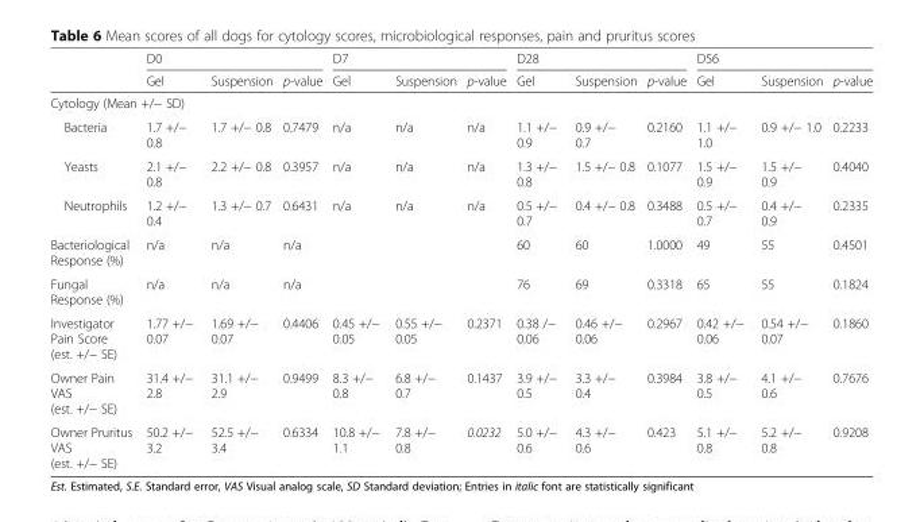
<table><thead><tr><td rowspan="2"></td><td colspan="3">D0</td><td colspan="3">D7</td><td colspan="3">D28</td><td colspan="3">D56</td></tr><tr><td>Gel</td><td>Suspension</td><td>p-value</td><td>Gel</td><td>Suspension</td><td>p-value</td><td>Gel</td><td>Suspension</td><td>p-value</td><td>Gel</td><td>Suspension</td><td>p-value</td></tr></thead><tbody><tr><td colspan="13">Cytology (Mean +/− SD)</td></tr><tr><td>Bacteria</td><td>1.7 +/− 0.8</td><td>1.7 +/− 0.8</td><td>0.7479</td><td>n/a</td><td>n/a</td><td>n/a</td><td>1.1 +/− 0.9</td><td>0.9 +/− 0.7</td><td>0.2160</td><td>1.1 +/− 1.0</td><td>0.9 +/− 1.0</td><td>0.2233</td></tr><tr><td>Yeasts</td><td>2.1 +/− 0.8</td><td>2.2 +/− 0.8</td><td>0.3957</td><td>n/a</td><td>n/a</td><td>n/a</td><td>1.3 +/− 0.8</td><td>1.5 +/− 0.8</td><td>0.1077</td><td>1.5 +/− 0.9</td><td>1.5 +/− 0.9</td><td>0.4040</td></tr><tr><td>Neutrophils</td><td>1.2 +/− 0.4</td><td>1.3 +/− 0.7</td><td>0.6431</td><td>n/a</td><td>n/a</td><td>n/a</td><td>0.5 +/− 0.7</td><td>0.4 +/− 0.8</td><td>0.3488</td><td>0.5 +/− 0.7</td><td>0.4 +/− 0.9</td><td>0.2335</td></tr><tr><td>Bacteriological Response (%)</td><td>n/a</td><td>n/a</td><td>n/a</td><td></td><td></td><td></td><td>60</td><td>60</td><td>1.0000</td><td>49</td><td>55</td><td>0.4501</td></tr><tr><td>Fungal Response (%)</td><td>n/a</td><td>n/a</td><td>n/a</td><td></td><td></td><td></td><td>76</td><td>69</td><td>0.3318</td><td>65</td><td>55</td><td>0.1824</td></tr><tr><td>Investigator Pain Score (est. +/− SE)</td><td>1.77 +/− 0.07</td><td>1.69 +/− 0.07</td><td>0.4406</td><td>0.45 +/− 0.05</td><td>0.55 +/− 0.05</td><td>0.2371</td><td>0.38 /− 0.06</td><td>0.46 +/− 0.06</td><td>0.2967</td><td>0.42 +/− 0.06</td><td>0.54 +/− 0.07</td><td>0.1860</td></tr><tr><td>Owner Pain VAS (est. +/− SE)</td><td>31.4 +/− 2.8</td><td>31.1 +/− 2.9</td><td>0.9499</td><td>8.3 +/− 0.8</td><td>6.8 +/− 0.7</td><td>0.1437</td><td>3.9 +/− 0.5</td><td>3.3 +/− 0.4</td><td>0.3984</td><td>3.8 +/− 0.5</td><td>4.1 +/− 0.6</td><td>0.7676</td></tr><tr><td>Owner Pruritus VAS (est. +/− SE)</td><td>50.2 +/− 3.2</td><td>52.5 +/− 3.4</td><td>0.6334</td><td>10.8 +/− 1.1</td><td>7.8 +/− 0.8</td><td>0.0232</td><td>5.0 +/− 0.6</td><td>4.3 +/− 0.6</td><td>0.423</td><td>5.1 +/− 0.8</td><td>5.2 +/− 0.8</td><td>0.9208</td></tr></tbody></table>